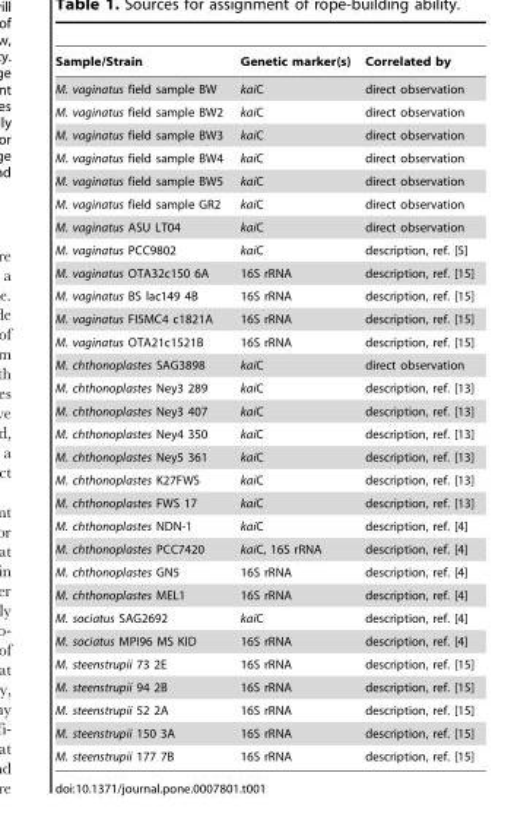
<table><thead><tr><td>Sample/Strain</td><td>Genetic marker(s)</td><td>Correlated by</td></tr></thead><tbody><tr><td>M. vaginatus field sample BW</td><td>kaiC</td><td>direct observation</td></tr><tr><td>M. vaginatus field sample BW2</td><td>kaiC</td><td>direct observation</td></tr><tr><td>M. vaginatus field sample BW3</td><td>kaiC</td><td>direct observation</td></tr><tr><td>M. vaginatus field sample BW4</td><td>kaiC</td><td>direct observation</td></tr><tr><td>M. vaginatus field sample BW5</td><td>kaiC</td><td>direct observation</td></tr><tr><td>M. vaginatus field sample GR2</td><td>kaiC</td><td>direct observation</td></tr><tr><td>M. vaginatus ASU LT04</td><td>kaiC</td><td>direct observation</td></tr><tr><td>M. vaginatus PCC9802</td><td>kaiC</td><td>description, ref. [5]</td></tr><tr><td>M. vaginatus OTA32c150 6A</td><td>16S rRNA</td><td>description, ref. [15]</td></tr><tr><td>M. vaginatus BS lac149 4B</td><td>16S rRNA</td><td>description, ref. [15]</td></tr><tr><td>M. vaginatus FI5MC4 c1821A</td><td>16S rRNA</td><td>description, ref. [15]</td></tr><tr><td>M. vaginatus OTA21c1521B</td><td>16S rRNA</td><td>description, ref. [15]</td></tr><tr><td>M. chthonoplastes SAG3898</td><td>kaiC</td><td>direct observation</td></tr><tr><td>M. chthonoplastes Ney3 289</td><td>kaiC</td><td>description, ref. [13]</td></tr><tr><td>M. chthonoplastes Ney3 407</td><td>kaiC</td><td>description, ref. [13]</td></tr><tr><td>M. chthonoplastes Ney4 350</td><td>kaiC</td><td>description, ref. [13]</td></tr><tr><td>M. chthonoplastes Ney5 361</td><td>kaiC</td><td>description, ref. [13]</td></tr><tr><td>M. chthonoplastes K27FWS</td><td>kaiC</td><td>description, ref. [13]</td></tr><tr><td>M. chthonoplastes FWS 17</td><td>kaiC</td><td>description, ref. [13]</td></tr><tr><td>M. chthonoplastes NDN-1</td><td>kaiC</td><td>description, ref. [4]</td></tr><tr><td>M. chthonoplastes PCC7420</td><td>kaiC, 16S rRNA</td><td>description, ref. [4]</td></tr><tr><td>M. chthonoplastes GN5</td><td>16S rRNA</td><td>description, ref. [4]</td></tr><tr><td>M. chthonoplastes MEL1</td><td>16S rRNA</td><td>description, ref. [4]</td></tr><tr><td>M. sociatus SAG2692</td><td>kaiC</td><td>description, ref. [4]</td></tr><tr><td>M. sociatus MPI96 MS KID</td><td>16S rRNA</td><td>description, ref. [4]</td></tr><tr><td>M. steenstrupii 73 2E</td><td>16S rRNA</td><td>description, ref. [15]</td></tr><tr><td>M. steenstrupii 94 2B</td><td>16S rRNA</td><td>description, ref. [15]</td></tr><tr><td>M. steenstrupii 52 2A</td><td>16S rRNA</td><td>description, ref. [15]</td></tr><tr><td>M. steenstrupii 150 3A</td><td>16S rRNA</td><td>description, ref. [15]</td></tr><tr><td>M. steenstrupii 177 7B</td><td>16S rRNA</td><td>description, ref. [15]</td></tr></tbody></table>